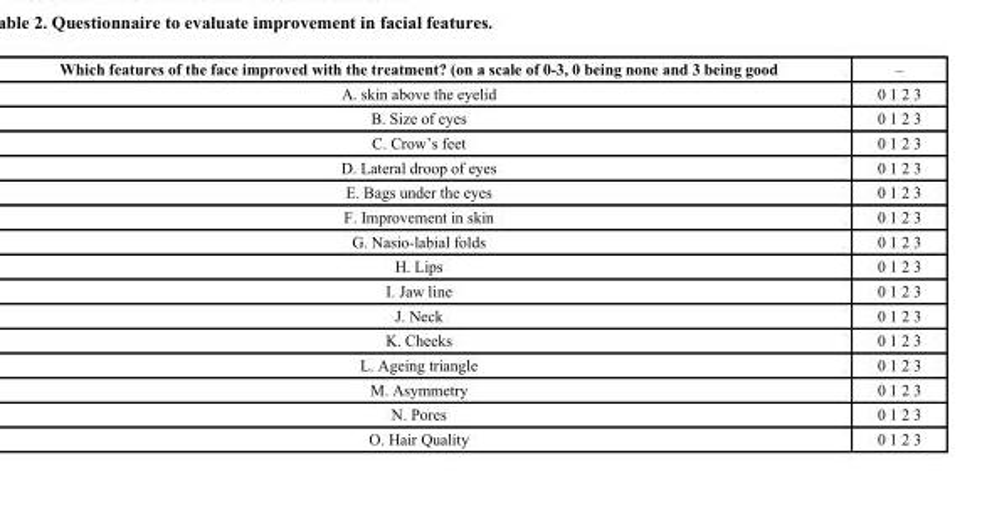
<table><thead><tr><td>Which features of the face improved with the treatment? (on a scale of 0-3, 0 being none and 3 being good</td><td>–</td></tr></thead><tbody><tr><td>A. skin above the eyelid</td><td>0 1 2 3</td></tr><tr><td>B. Size of eyes</td><td>0 1 2 3</td></tr><tr><td>C. Crow’s feet</td><td>0 1 2 3</td></tr><tr><td>D. Lateral droop of eyes</td><td>0 1 2 3</td></tr><tr><td>E. Bags under the eyes</td><td>0 1 2 3</td></tr><tr><td>F. Improvement in skin</td><td>0 1 2 3</td></tr><tr><td>G. Nasio-labial folds</td><td>0 1 2 3</td></tr><tr><td>H. Lips</td><td>0 1 2 3</td></tr><tr><td>I. Jaw line</td><td>0 1 2 3</td></tr><tr><td>J. Neck</td><td>0 1 2 3</td></tr><tr><td>K. Cheeks</td><td>0 1 2 3</td></tr><tr><td>L. Ageing triangle</td><td>0 1 2 3</td></tr><tr><td>M. Asymmetry</td><td>0 1 2 3</td></tr><tr><td>N. Pores</td><td>0 1 2 3</td></tr><tr><td>O. Hair Quality</td><td>0 1 2 3</td></tr></tbody></table>